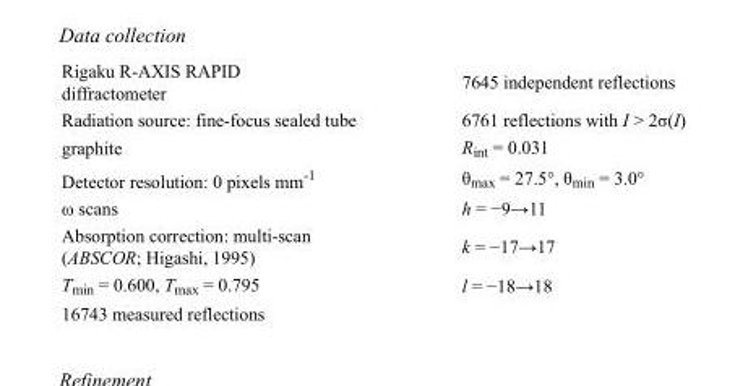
<table><tbody><tr><td>Rigaku R-AXIS RAPID diffractometer</td><td>7645 independent reflections</td></tr><tr><td>Radiation source: fine-focus sealed tube</td><td>6761 reflections with I &gt; 2σ(I)</td></tr><tr><td>graphite</td><td>R<sub>int</sub> = 0.031</td></tr><tr><td>Detector resolution: 0 pixels mm<sup>-1</sup></td><td>θ<sub>max</sub> = 27.5°, θ<sub>min</sub> = 3.0°</td></tr><tr><td>ω scans</td><td>h = −9→11</td></tr><tr><td>Absorption correction: multi-scan (ABSCOR; Higashi, 1995)</td><td>k = −17→17</td></tr><tr><td>T<sub>min</sub> = 0.600, T<sub>max</sub> = 0.795</td><td>l = −18→18</td></tr><tr><td>16743 measured reflections</td><td></td></tr></tbody></table>